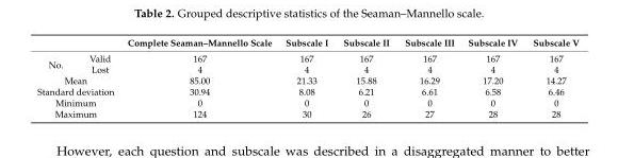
<table><thead><tr><td></td><td></td><td>Complete Seaman–Mannello Scale</td><td>Subscale I</td><td>Subscale II</td><td>Subscale III</td><td>Subscale IV</td><td>Subscale V</td></tr></thead><tbody><tr><td rowspan="2">No.</td><td>Valid</td><td>167</td><td>167</td><td>167</td><td>167</td><td>167</td><td>167</td></tr><tr><td>Lost</td><td>4</td><td>4</td><td>4</td><td>4</td><td>4</td><td>4</td></tr><tr><td colspan="2">Mean</td><td>85.00</td><td>21.33</td><td>15.88</td><td>16.29</td><td>17.20</td><td>14.27</td></tr><tr><td colspan="2">Standard deviation</td><td>30.94</td><td>8.08</td><td>6.21</td><td>6.61</td><td>6.58</td><td>6.46</td></tr><tr><td colspan="2">Minimum</td><td>0</td><td>0</td><td>0</td><td>0</td><td>0</td><td>0</td></tr><tr><td colspan="2">Maximum</td><td>124</td><td>30</td><td>26</td><td>27</td><td>28</td><td>28</td></tr></tbody></table>